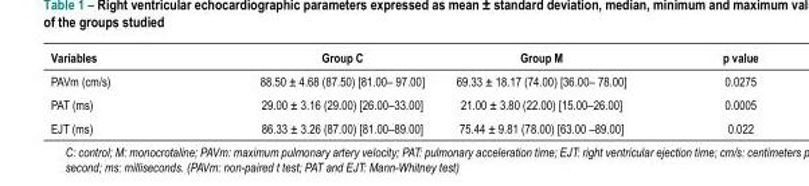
<table><thead><tr><td>Variables</td><td>Group C</td><td>Group M</td><td>p value</td></tr></thead><tbody><tr><td>PAVm (cm/s)</td><td>88.50 ± 4.68 (87.50) [81.00– 97.00]</td><td>69.33 ± 18.17 (74.00) [36.00– 78.00]</td><td>0.0275</td></tr><tr><td>PAT (ms)</td><td>29.00 ± 3.16 (29.00) [26.00–33.00]</td><td>21.00 ± 3.80 (22.00) [15.00–26.00]</td><td>0.0005</td></tr><tr><td>EJT (ms)</td><td>86.33 ± 3.26 (87.00) [81.00–89.00]</td><td>75.44 ± 9.81 (78.00) [63.00 –89.00]</td><td>0.022</td></tr></tbody></table>